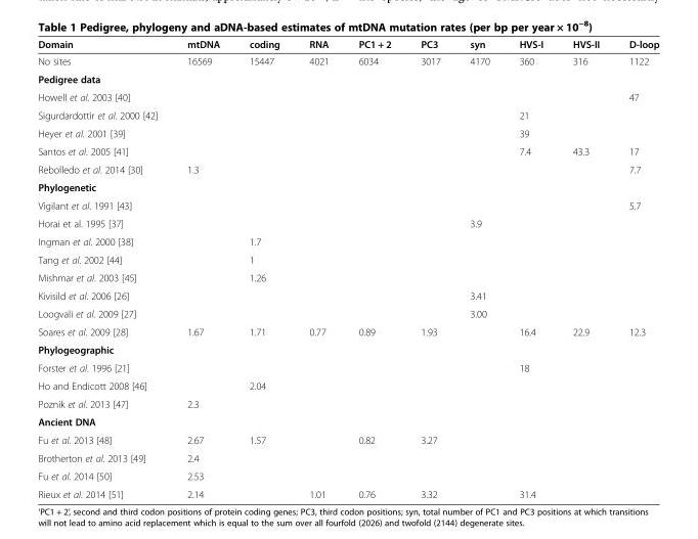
<table><thead><tr><td>Domain</td><td>mtDNA</td><td>coding</td><td>RNA</td><td>PC1 + 2</td><td>PC3</td><td>syn</td><td>HVS-I</td><td>HVS-II</td><td>D-loop</td></tr></thead><tbody><tr><td>No sites</td><td>16569</td><td>15447</td><td>4021</td><td>6034</td><td>3017</td><td>4170</td><td>360</td><td>316</td><td>1122</td></tr><tr><td colspan="10">Pedigree data</td></tr><tr><td>Howell et al. 2003 [40]</td><td></td><td></td><td></td><td></td><td></td><td></td><td></td><td></td><td>47</td></tr><tr><td>Sigurdardottir et al. 2000 [42]</td><td></td><td></td><td></td><td></td><td></td><td></td><td colspan="2">21</td><td></td></tr><tr><td>Heyer et al. 2001 [39]</td><td></td><td></td><td></td><td></td><td></td><td></td><td colspan="2">39</td><td></td></tr><tr><td>Santos et al. 2005 [41]</td><td></td><td></td><td></td><td></td><td></td><td></td><td>7.4</td><td>43.3</td><td>17</td></tr><tr><td>Rebolledo et al. 2014 [30]</td><td>1.3</td><td></td><td></td><td></td><td></td><td></td><td></td><td></td><td>7.7</td></tr><tr><td colspan="10">Phylogenetic</td></tr><tr><td>Vigilant et al. 1991 [43]</td><td></td><td></td><td></td><td></td><td></td><td></td><td></td><td></td><td>5.7</td></tr><tr><td>Horai et al. 1995 [37]</td><td></td><td></td><td></td><td></td><td></td><td>3.9</td><td></td><td></td><td></td></tr><tr><td>Ingman et al. 2000 [38]</td><td></td><td>1.7</td><td></td><td></td><td></td><td></td><td></td><td></td><td></td></tr><tr><td>Tang et al. 2002 [44]</td><td></td><td>1</td><td></td><td></td><td></td><td></td><td></td><td></td><td></td></tr><tr><td>Mishmar et al. 2003 [45]</td><td></td><td>1.26</td><td></td><td></td><td></td><td></td><td></td><td></td><td></td></tr><tr><td>Kivisild et al. 2006 [26]</td><td></td><td></td><td></td><td></td><td></td><td>3.41</td><td></td><td></td><td></td></tr><tr><td>Loogvali et al. 2009 [27]</td><td></td><td></td><td></td><td></td><td></td><td>3.00</td><td></td><td></td><td></td></tr><tr><td>Soares et al. 2009 [28]</td><td>1.67</td><td>1.71</td><td>0.77</td><td>0.89</td><td>1.93</td><td></td><td>16.4</td><td>22.9</td><td>12.3</td></tr><tr><td colspan="10">Phylogeographic</td></tr><tr><td>Forster et al. 1996 [21]</td><td></td><td></td><td></td><td></td><td></td><td></td><td>18</td><td></td><td></td></tr><tr><td>Ho and Endicott 2008 [46]</td><td></td><td>2.04</td><td></td><td></td><td></td><td></td><td></td><td></td><td></td></tr><tr><td>Poznik et al. 2013 [47]</td><td>2.3</td><td></td><td></td><td></td><td></td><td></td><td></td><td></td><td></td></tr><tr><td colspan="10">Ancient DNA</td></tr><tr><td>Fu et al. 2013 [48]</td><td>2.67</td><td>1.57</td><td></td><td>0.82</td><td>3.27</td><td></td><td></td><td></td><td></td></tr><tr><td>Brotherton et al. 2013 [49]</td><td>2.4</td><td></td><td></td><td></td><td></td><td></td><td></td><td></td><td></td></tr><tr><td>Fu et al. 2014 [50]</td><td>2.53</td><td></td><td></td><td></td><td></td><td></td><td></td><td></td><td></td></tr><tr><td>Rieux et al. 2014 [51]</td><td>2.14</td><td></td><td>1.01</td><td>0.76</td><td>3.32</td><td></td><td colspan="2">31.4</td><td></td></tr></tbody></table>